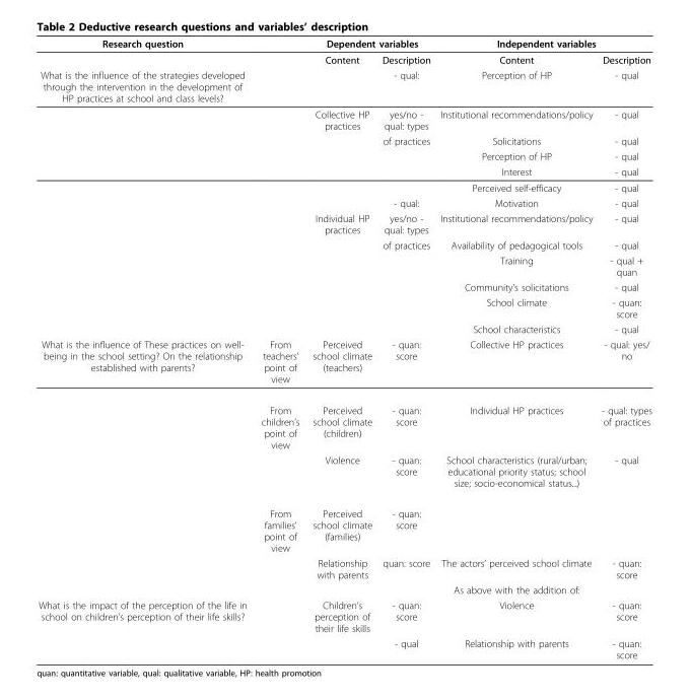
<table><thead><tr><td rowspan="2">Research question</td><td rowspan="2"></td><td colspan="2">Dependent variables</td><td colspan="2">Independent variables</td></tr><tr><td>Content</td><td>Description</td><td>Content</td><td>Description</td></tr></thead><tbody><tr><td rowspan="13">What is the influence of the strategies developed through the intervention in the development of HP practices at school and class levels?</td><td></td><td></td><td>- qual:</td><td>Perception of HP</td><td>- qual</td></tr><tr><td></td><td>Collective HP practices</td><td>yes/no - qual: types</td><td>Institutional recommendations/policy</td><td>- qual</td></tr><tr><td></td><td></td><td>of practices</td><td>Solicitations</td><td>- qual</td></tr><tr><td></td><td></td><td></td><td>Perception of HP</td><td>- qual</td></tr><tr><td></td><td></td><td></td><td>Interest</td><td>- qual</td></tr><tr><td></td><td></td><td></td><td>Perceived self-efficacy</td><td>- qual</td></tr><tr><td></td><td></td><td>- qual:</td><td>Motivation</td><td>- qual</td></tr><tr><td></td><td>Individual HP practices</td><td>yes/no - qual: types</td><td>Institutional recommendations/policy</td><td>- qual</td></tr><tr><td></td><td></td><td>of practices</td><td>Availability of pedagogical tools</td><td>- qual</td></tr><tr><td></td><td></td><td></td><td>Training</td><td>- qual + quan</td></tr><tr><td></td><td></td><td></td><td>Community’s solicitations</td><td>- qual</td></tr><tr><td></td><td></td><td></td><td>School climate</td><td>- quan: score</td></tr><tr><td></td><td></td><td></td><td>School characteristics</td><td>- qual</td></tr><tr><td rowspan="6">What is the influence of These practices on well- being in the school setting? On the relationship established with parents?</td><td>From teachers’ point of view</td><td>Perceived school climate (teachers)</td><td>- quan: score</td><td>Collective HP practices</td><td>- qual: yes/ no</td></tr><tr><td>From children’s point of view</td><td>Perceived school climate (children)</td><td>- quan: score</td><td>Individual HP practices</td><td>- qual: types of practices</td></tr><tr><td></td><td>Violence</td><td>- quan: score</td><td>School characteristics (rural/urban; educational priority status; school size; socio-economical status...)</td><td>- qual</td></tr><tr><td>From families’ point of view</td><td>Perceived school climate (families)</td><td>- quan: score</td><td></td><td></td></tr><tr><td></td><td>Relationship with parents</td><td>quan: score</td><td>The actors’ perceived school climate</td><td>- quan: score</td></tr><tr><td></td><td></td><td></td><td>As above with the addition of:</td><td></td></tr><tr><td rowspan="2">What is the impact of the perception of the life in school on children’s perception of their life skills?</td><td></td><td>Children’s perception of their life skills</td><td>- quan: score</td><td>Violence</td><td>- quan: score</td></tr><tr><td></td><td></td><td>- qual</td><td>Relationship with parents</td><td>- quan: score</td></tr></tbody></table>